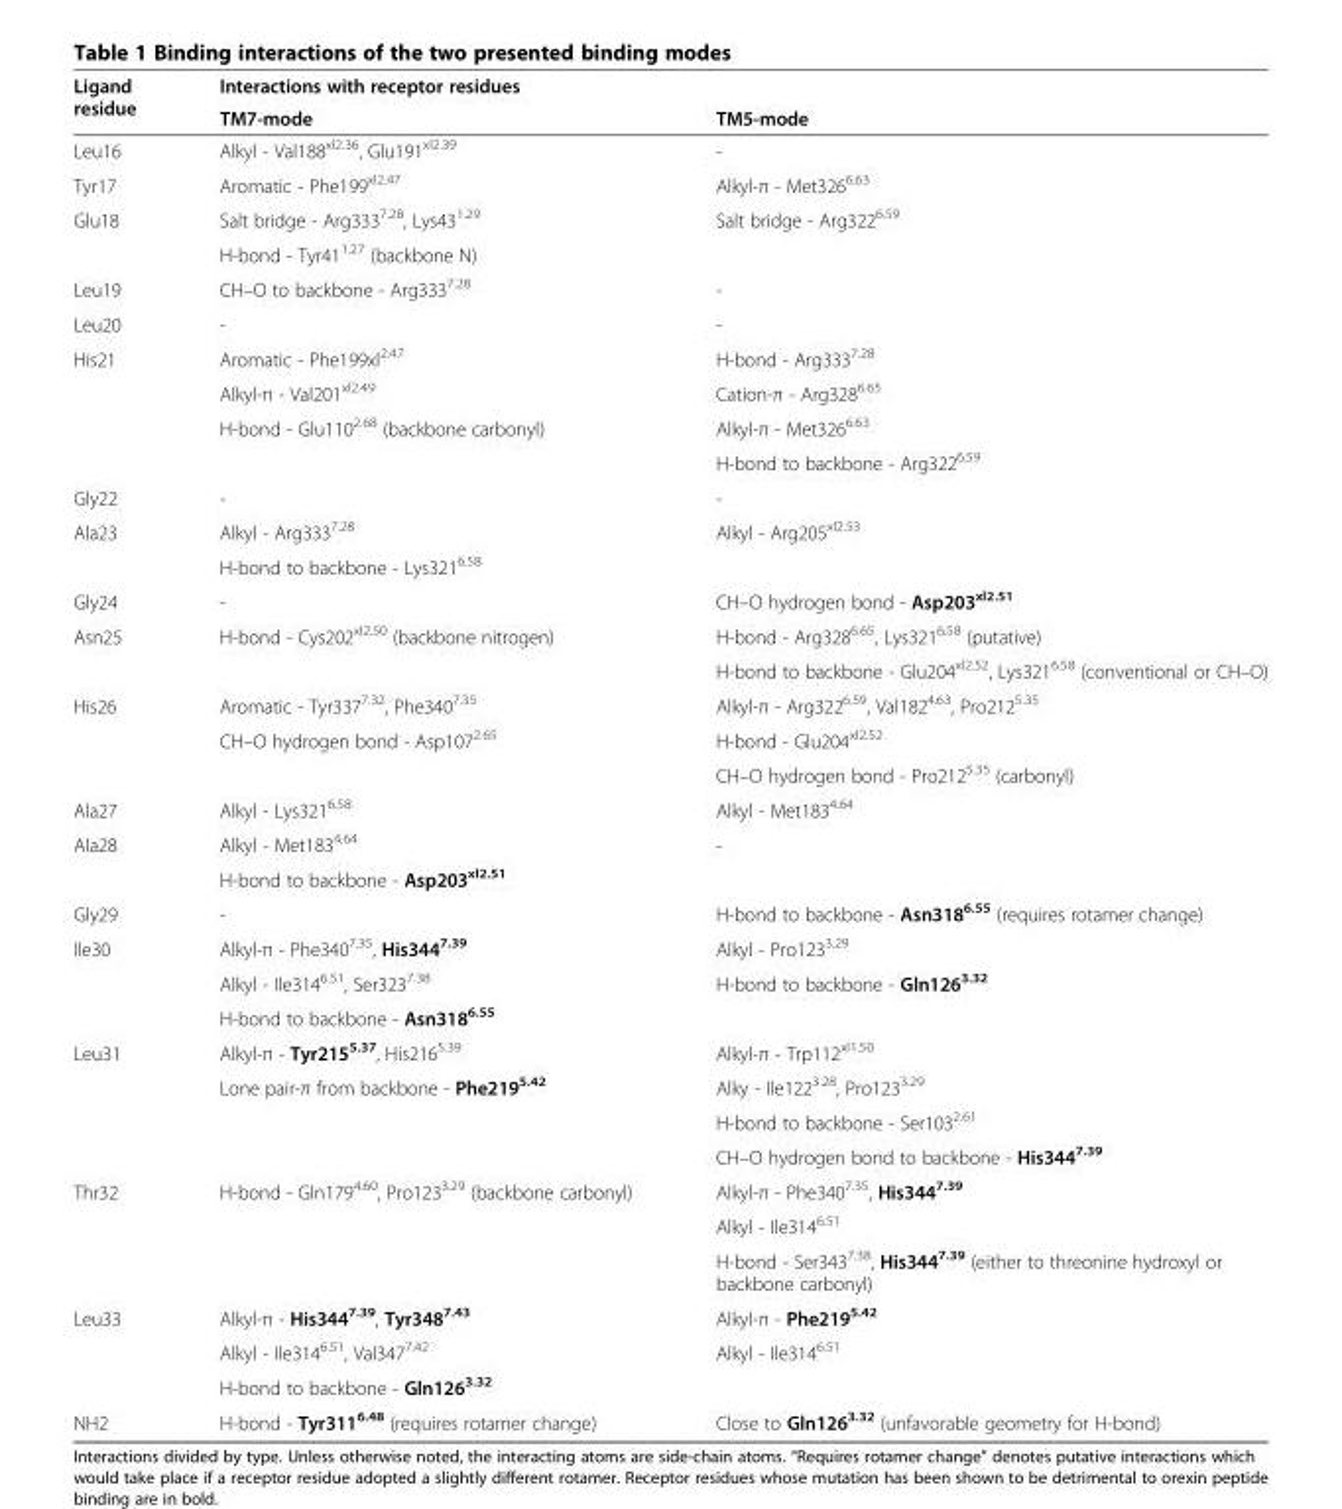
<table><thead><tr><td rowspan="2">Ligand residue</td><td rowspan="2">Interactions with receptor residues TM7-mode</td><td rowspan="2">TM5-mode</td></tr><tr></tr></thead><tbody><tr><td>Leu16</td><td>Alkyl - Val188<sup>xl2.36</sup>, Glu191<sup>xl2.39</sup></td><td>-</td></tr><tr><td>Tyr17</td><td>Aromatic - Phe199<sup>xl2.47</sup></td><td>Alkyl-π - Met326<sup>6.63</sup></td></tr><tr><td rowspan="2">Glu18</td><td>Salt bridge - Arg333<sup>7.28</sup>, Lys43<sup>1.29</sup></td><td rowspan="2">Salt bridge - Arg322<sup>6.59</sup></td></tr><tr><td>H-bond - Tyr41<sup>1.27</sup> (backbone N)</td></tr><tr><td>Leu19</td><td>CH–O to backbone - Arg333<sup>7.28</sup></td><td>-</td></tr><tr><td>Leu20</td><td>-</td><td>-</td></tr><tr><td rowspan="4">His21</td><td>Aromatic - Phe199xl<sup>2.47</sup></td><td>H-bond - Arg333<sup>7.28</sup></td></tr><tr><td>Alkyl-π - Val201<sup>xl2.49</sup></td><td>Cation-π - Arg328<sup>6.65</sup></td></tr><tr><td rowspan="2">H-bond - Glu110<sup>2.68</sup> (backbone carbonyl)</td><td>Alkyl-π - Met326<sup>6.63</sup></td></tr><tr><td>H-bond to backbone - Arg322<sup>6.59</sup></td></tr><tr><td>Gly22</td><td>-</td><td>-</td></tr><tr><td rowspan="2">Ala23</td><td>Alkyl - Arg333<sup>7.28</sup></td><td rowspan="2">Alkyl - Arg205<sup>xl2.53</sup></td></tr><tr><td>H-bond to backbone - Lys321<sup>6.58</sup></td></tr><tr><td>Gly24</td><td>-</td><td>CH–O hydrogen bond - Asp203<sup>xl2.51</sup></td></tr><tr><td rowspan="2">Asn25</td><td rowspan="2">H-bond - Cys202<sup>xl2.50</sup> (backbone nitrogen)</td><td>H-bond - Arg328<sup>6.65</sup>, Lys321<sup>6.58</sup> (putative)</td></tr><tr><td>H-bond to backbone - Glu204<sup>xl2.52</sup>, Lys321<sup>6.58</sup> (conventional or CH–O)</td></tr><tr><td rowspan="3">His26</td><td>Aromatic - Tyr337<sup>7.32</sup>, Phe340<sup>7.35</sup></td><td>Alkyl-π - Arg322<sup>6.59</sup>, Val182<sup>4.63</sup>, Pro212<sup>5.35</sup></td></tr><tr><td rowspan="2">CH–O hydrogen bond - Asp107<sup>2.65</sup></td><td>H-bond - Glu204<sup>xl2.52</sup></td></tr><tr><td>CH–O hydrogen bond - Pro212<sup>5.35</sup> (carbonyl)</td></tr><tr><td>Ala27</td><td>Alkyl - Lys321<sup>6.58</sup></td><td>Alkyl - Met183<sup>4.64</sup></td></tr><tr><td rowspan="2">Ala28</td><td>Alkyl - Met183<sup>4.64</sup></td><td rowspan="2">-</td></tr><tr><td>H-bond to backbone - Asp203<sup>xl2.51</sup></td></tr><tr><td>Gly29</td><td>-</td><td>H-bond to backbone - Asn318<sup>6.55</sup> (requires rotamer change)</td></tr><tr><td rowspan="3">Ile30</td><td>Alkyl-π - Phe340<sup>7.35</sup>, His344<sup>7.39</sup></td><td>Alkyl - Pro123<sup>3.29</sup></td></tr><tr><td>Alkyl - Ile314<sup>6.51</sup>, Ser323<sup>7.38</sup></td><td rowspan="2">H-bond to backbone - Gln126<sup>3.32</sup></td></tr><tr><td>H-bond to backbone - Asn318<sup>6.55</sup></td></tr><tr><td rowspan="4">Leu31</td><td>Alkyl-π - Tyr215<sup>5.37</sup>, His216<sup>5.39</sup></td><td>Alkyl-π - Trp112<sup>xl1.50</sup></td></tr><tr><td rowspan="3">Lone pair-π from backbone - Phe219<sup>5.42</sup></td><td>Alky - Ile122<sup>3.28</sup>, Pro123<sup>3.29</sup></td></tr><tr><td>H-bond to backbone - Ser103<sup>2.61</sup></td></tr><tr><td>CH–O hydrogen bond to backbone - His344<sup>7.39</sup></td></tr><tr><td rowspan="3">Thr32</td><td rowspan="3">H-bond - Gln179<sup>4.60</sup>, Pro123<sup>3.29</sup> (backbone carbonyl)</td><td>Alkyl-π - Phe340<sup>7.35</sup>, His344<sup>7.39</sup></td></tr><tr><td>Alkyl - Ile314<sup>6.51</sup></td></tr><tr><td>H-bond - Ser343<sup>7.38</sup>, His344<sup>7.39</sup> (either to threonine hydroxyl or backbone carbonyl)</td></tr><tr><td rowspan="3">Leu33</td><td>Alkyl-π - His344<sup>7.39</sup>, Tyr348<sup>7.43</sup></td><td>Alkyl-π - Phe219<sup>5.42</sup></td></tr><tr><td>Alkyl - Ile314<sup>6.51</sup>, Val347<sup>7.42</sup></td><td rowspan="2">Alkyl - Ile314<sup>6.51</sup></td></tr><tr><td>H-bond to backbone - Gln126<sup>3.32</sup></td></tr><tr><td>NH2</td><td>H-bond - Tyr311<sup>6.48</sup> (requires rotamer change)</td><td>Close to Gln126<sup>3.32</sup> (unfavorable geometry for H-bond)</td></tr></tbody></table>